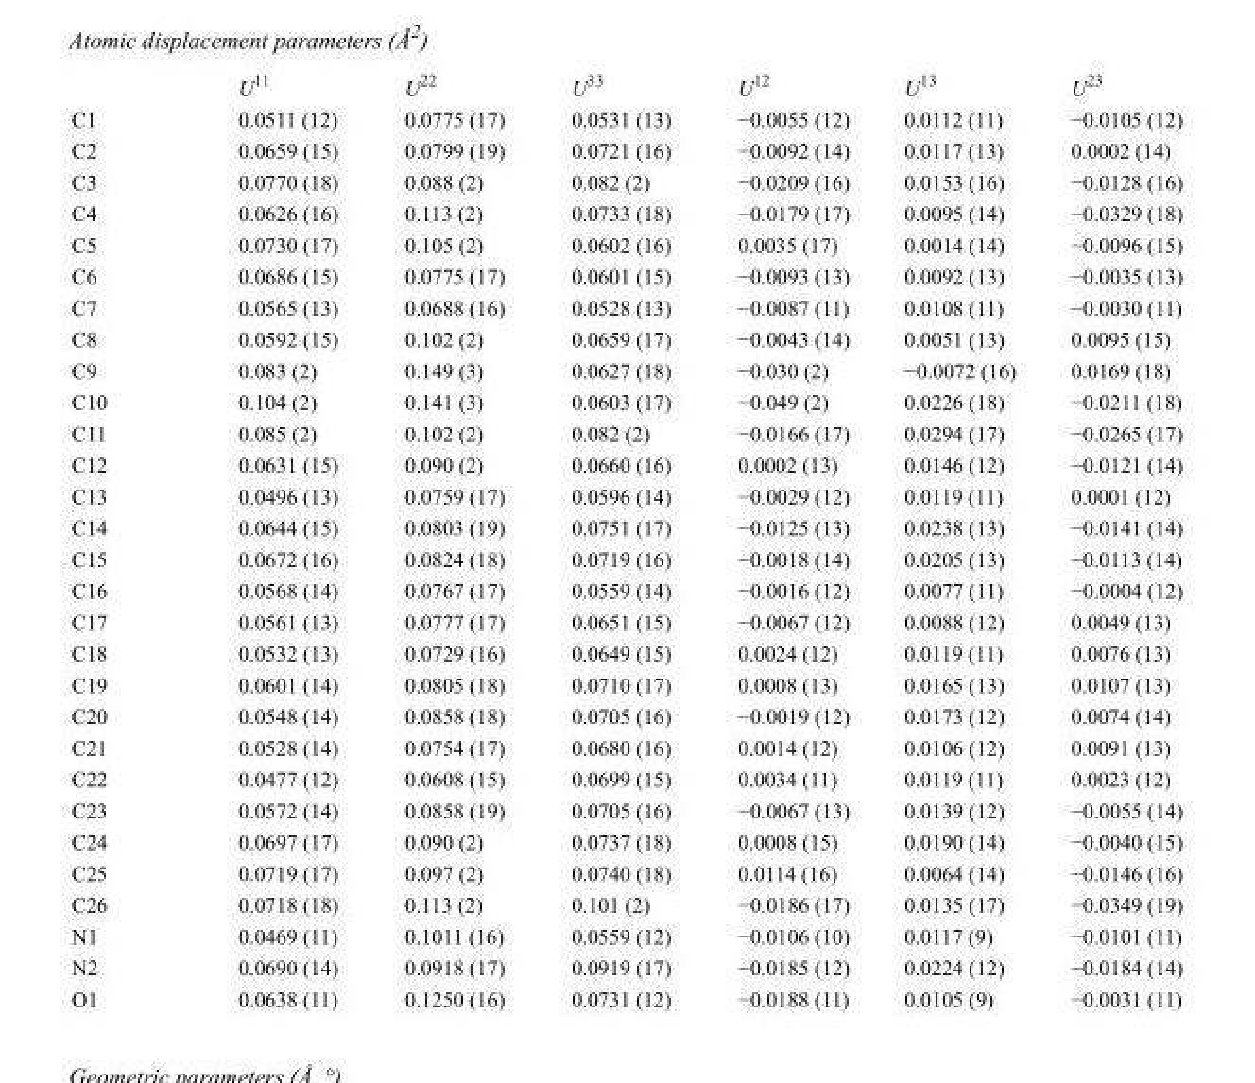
<table><thead><tr><td></td><td>U<sup>11</sup></td><td>U<sup>22</sup></td><td>U<sup>33</sup></td><td>U<sup>12</sup></td><td>U<sup>13</sup></td><td>U<sup>23</sup></td></tr></thead><tbody><tr><td>C1</td><td>0.0511 (12)</td><td>0.0775 (17)</td><td>0.0531 (13)</td><td>−0.0055 (12)</td><td>0.0112 (11)</td><td>−0.0105 (12)</td></tr><tr><td>C2</td><td>0.0659 (15)</td><td>0.0799 (19)</td><td>0.0721 (16)</td><td>−0.0092 (14)</td><td>0.0117 (13)</td><td>0.0002 (14)</td></tr><tr><td>C3</td><td>0.0770 (18)</td><td>0.088 (2)</td><td>0.082 (2)</td><td>−0.0209 (16)</td><td>0.0153 (16)</td><td>−0.0128 (16)</td></tr><tr><td>C4</td><td>0.0626 (16)</td><td>0.113 (2)</td><td>0.0733 (18)</td><td>−0.0179 (17)</td><td>0.0095 (14)</td><td>−0.0329 (18)</td></tr><tr><td>C5</td><td>0.0730 (17)</td><td>0.105 (2)</td><td>0.0602 (16)</td><td>0.0035 (17)</td><td>0.0014 (14)</td><td>−0.0096 (15)</td></tr><tr><td>C6</td><td>0.0686 (15)</td><td>0.0775 (17)</td><td>0.0601 (15)</td><td>−0.0093 (13)</td><td>0.0092 (13)</td><td>−0.0035 (13)</td></tr><tr><td>C7</td><td>0.0565 (13)</td><td>0.0688 (16)</td><td>0.0528 (13)</td><td>−0.0087 (11)</td><td>0.0108 (11)</td><td>−0.0030 (11)</td></tr><tr><td>C8</td><td>0.0592 (15)</td><td>0.102 (2)</td><td>0.0659 (17)</td><td>−0.0043 (14)</td><td>0.0051 (13)</td><td>0.0095 (15)</td></tr><tr><td>C9</td><td>0.083 (2)</td><td>0.149 (3)</td><td>0.0627 (18)</td><td>−0.030 (2)</td><td>−0.0072 (16)</td><td>0.0169 (18)</td></tr><tr><td>C10</td><td>0.104 (2)</td><td>0.141 (3)</td><td>0.0603 (17)</td><td>−0.049 (2)</td><td>0.0226 (18)</td><td>−0.0211 (18)</td></tr><tr><td>C11</td><td>0.085 (2)</td><td>0.102 (2)</td><td>0.082 (2)</td><td>−0.0166 (17)</td><td>0.0294 (17)</td><td>−0.0265 (17)</td></tr><tr><td>C12</td><td>0.0631 (15)</td><td>0.090 (2)</td><td>0.0660 (16)</td><td>0.0002 (13)</td><td>0.0146 (12)</td><td>−0.0121 (14)</td></tr><tr><td>C13</td><td>0.0496 (13)</td><td>0.0759 (17)</td><td>0.0596 (14)</td><td>−0.0029 (12)</td><td>0.0119 (11)</td><td>0.0001 (12)</td></tr><tr><td>C14</td><td>0.0644 (15)</td><td>0.0803 (19)</td><td>0.0751 (17)</td><td>−0.0125 (13)</td><td>0.0238 (13)</td><td>−0.0141 (14)</td></tr><tr><td>C15</td><td>0.0672 (16)</td><td>0.0824 (18)</td><td>0.0719 (16)</td><td>−0.0018 (14)</td><td>0.0205 (13)</td><td>−0.0113 (14)</td></tr><tr><td>C16</td><td>0.0568 (14)</td><td>0.0767 (17)</td><td>0.0559 (14)</td><td>−0.0016 (12)</td><td>0.0077 (11)</td><td>−0.0004 (12)</td></tr><tr><td>C17</td><td>0.0561 (13)</td><td>0.0777 (17)</td><td>0.0651 (15)</td><td>−0.0067 (12)</td><td>0.0088 (12)</td><td>0.0049 (13)</td></tr><tr><td>C18</td><td>0.0532 (13)</td><td>0.0729 (16)</td><td>0.0649 (15)</td><td>0.0024 (12)</td><td>0.0119 (11)</td><td>0.0076 (13)</td></tr><tr><td>C19</td><td>0.0601 (14)</td><td>0.0805 (18)</td><td>0.0710 (17)</td><td>0.0008 (13)</td><td>0.0165 (13)</td><td>0.0107 (13)</td></tr><tr><td>C20</td><td>0.0548 (14)</td><td>0.0858 (18)</td><td>0.0705 (16)</td><td>−0.0019 (12)</td><td>0.0173 (12)</td><td>0.0074 (14)</td></tr><tr><td>C21</td><td>0.0528 (14)</td><td>0.0754 (17)</td><td>0.0680 (16)</td><td>0.0014 (12)</td><td>0.0106 (12)</td><td>0.0091 (13)</td></tr><tr><td>C22</td><td>0.0477 (12)</td><td>0.0608 (15)</td><td>0.0699 (15)</td><td>0.0034 (11)</td><td>0.0119 (11)</td><td>0.0023 (12)</td></tr><tr><td>C23</td><td>0.0572 (14)</td><td>0.0858 (19)</td><td>0.0705 (16)</td><td>−0.0067 (13)</td><td>0.0139 (12)</td><td>−0.0055 (14)</td></tr><tr><td>C24</td><td>0.0697 (17)</td><td>0.090 (2)</td><td>0.0737 (18)</td><td>0.0008 (15)</td><td>0.0190 (14)</td><td>−0.0040 (15)</td></tr><tr><td>C25</td><td>0.0719 (17)</td><td>0.097 (2)</td><td>0.0740 (18)</td><td>0.0114 (16)</td><td>0.0064 (14)</td><td>−0.0146 (16)</td></tr><tr><td>C26</td><td>0.0718 (18)</td><td>0.113 (2)</td><td>0.101 (2)</td><td>−0.0186 (17)</td><td>0.0135 (17)</td><td>−0.0349 (19)</td></tr><tr><td>N1</td><td>0.0469 (11)</td><td>0.1011 (16)</td><td>0.0559 (12)</td><td>−0.0106 (10)</td><td>0.0117 (9)</td><td>−0.0101 (11)</td></tr><tr><td>N2</td><td>0.0690 (14)</td><td>0.0918 (17)</td><td>0.0919 (17)</td><td>−0.0185 (12)</td><td>0.0224 (12)</td><td>−0.0184 (14)</td></tr><tr><td>O1</td><td>0.0638 (11)</td><td>0.1250 (16)</td><td>0.0731 (12)</td><td>−0.0188 (11)</td><td>0.0105 (9)</td><td>−0.0031 (11)</td></tr></tbody></table>